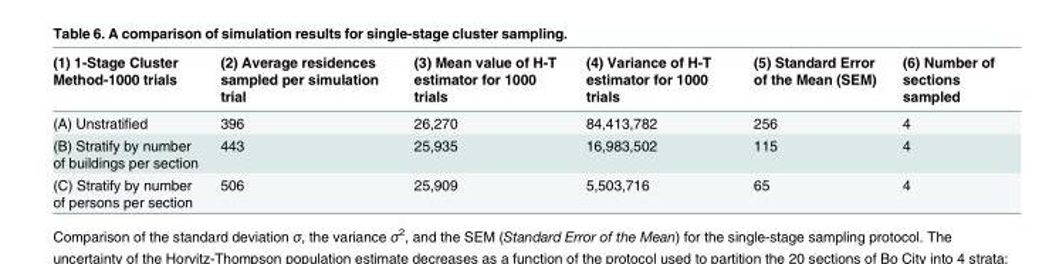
<table><thead><tr><td>(1) 1-Stage Cluster Method-1000 trials</td><td>(2) Average residences sampled per simulation trial</td><td>(3) Mean value of H-T estimator for 1000 trials</td><td>(4) Variance of H-T estimator for 1000 trials</td><td>(5) Standard Error of the Mean (SEM)</td><td>(6) Number of sections sampled</td></tr></thead><tbody><tr><td>(A) Unstratified</td><td>396</td><td>26,270</td><td>84,413,782</td><td>256</td><td>4</td></tr><tr><td>(B) Stratify by number of buildings per section</td><td>443</td><td>25,935</td><td>16,983,502</td><td>115</td><td>4</td></tr><tr><td>(C) Stratify by number of persons per section</td><td>506</td><td>25,909</td><td>5,503,716</td><td>65</td><td>4</td></tr></tbody></table>